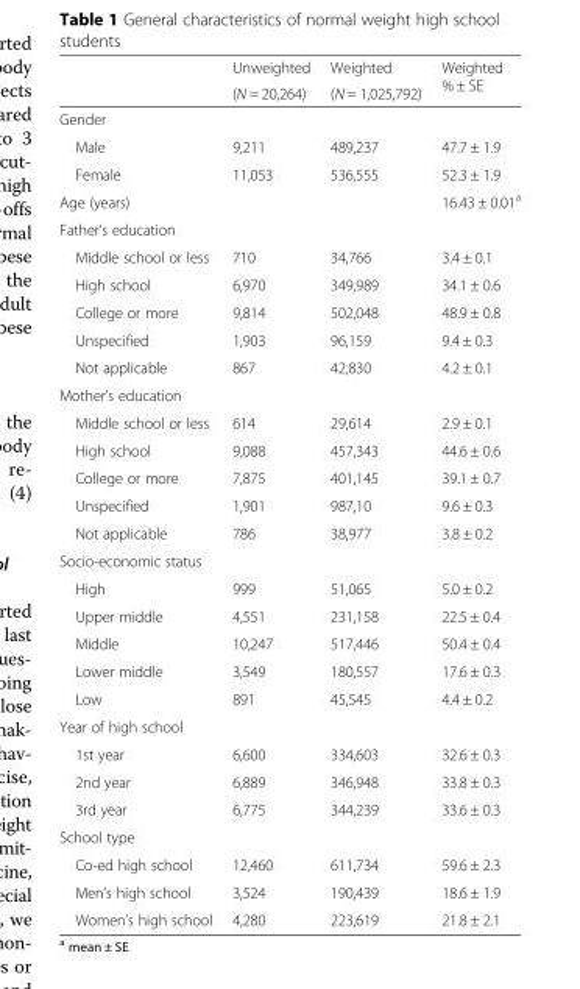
<table><thead><tr><td rowspan="2"></td><td rowspan="2">Unweighted (N = 20,264)</td><td rowspan="2">Weighted (N = 1,025,792)</td><td rowspan="2">Weighted % ± SE</td></tr><tr></tr></thead><tbody><tr><td colspan="4">Gender</td></tr><tr><td>Male</td><td>9,211</td><td>489,237</td><td>47.7 ± 1.9</td></tr><tr><td>Female</td><td>11,053</td><td>536,555</td><td>52.3 ± 1.9</td></tr><tr><td>Age (years)</td><td></td><td></td><td>16.43 ± 0.01<sup>a</sup></td></tr><tr><td colspan="4">Father’s education</td></tr><tr><td>Middle school or less</td><td>710</td><td>34,766</td><td>3.4 ± 0.1</td></tr><tr><td>High school</td><td>6,970</td><td>349,989</td><td>34.1 ± 0.6</td></tr><tr><td>College or more</td><td>9,814</td><td>502,048</td><td>48.9 ± 0.8</td></tr><tr><td>Unspecified</td><td>1,903</td><td>96,159</td><td>9.4 ± 0.3</td></tr><tr><td>Not applicable</td><td>867</td><td>42,830</td><td>4.2 ± 0.1</td></tr><tr><td colspan="4">Mother’s education</td></tr><tr><td>Middle school or less</td><td>614</td><td>29,614</td><td>2.9 ± 0.1</td></tr><tr><td>High school</td><td>9,088</td><td>457,343</td><td>44.6 ± 0.6</td></tr><tr><td>College or more</td><td>7,875</td><td>401,145</td><td>39.1 ± 0.7</td></tr><tr><td>Unspecified</td><td>1,901</td><td>987,10</td><td>9.6 ± 0.3</td></tr><tr><td>Not applicable</td><td>786</td><td>38,977</td><td>3.8 ± 0.2</td></tr><tr><td colspan="4">Socio-economic status</td></tr><tr><td>High</td><td>999</td><td>51,065</td><td>5.0 ± 0.2</td></tr><tr><td>Upper middle</td><td>4,551</td><td>231,158</td><td>22.5 ± 0.4</td></tr><tr><td>Middle</td><td>10,247</td><td>517,446</td><td>50.4 ± 0.4</td></tr><tr><td>Lower middle</td><td>3,549</td><td>180,557</td><td>17.6 ± 0.3</td></tr><tr><td>Low</td><td>891</td><td>45,545</td><td>4.4 ± 0.2</td></tr><tr><td colspan="4">Year of high school</td></tr><tr><td>1st year</td><td>6,600</td><td>334,603</td><td>32.6 ± 0.3</td></tr><tr><td>2nd year</td><td>6,889</td><td>346,948</td><td>33.8 ± 0.3</td></tr><tr><td>3rd year</td><td>6,775</td><td>344,239</td><td>33.6 ± 0.3</td></tr><tr><td colspan="4">School type</td></tr><tr><td>Co-ed high school</td><td>12,460</td><td>611,734</td><td>59.6 ± 2.3</td></tr><tr><td>Men’s high school</td><td>3,524</td><td>190,439</td><td>18.6 ± 1.9</td></tr><tr><td>Women’s high school</td><td>4,280</td><td>223,619</td><td>21.8 ± 2.1</td></tr></tbody></table>